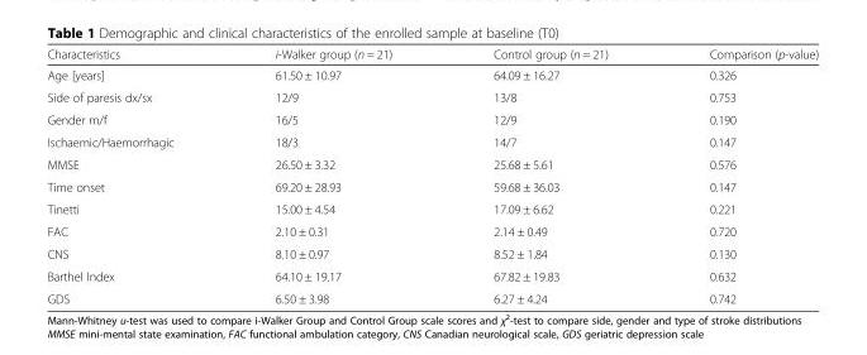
<table><thead><tr><td>Characteristics</td><td>i-Walker group (n = 21)</td><td>Control group (n = 21)</td><td>Comparison (p-value)</td></tr></thead><tbody><tr><td>Age [years]</td><td>61.50 ± 10.97</td><td>64.09 ± 16.27</td><td>0.326</td></tr><tr><td>Side of paresis dx/sx</td><td>12/9</td><td>13/8</td><td>0.753</td></tr><tr><td>Gender m/f</td><td>16/5</td><td>12/9</td><td>0.190</td></tr><tr><td>Ischaemic/Haemorrhagic</td><td>18/3</td><td>14/7</td><td>0.147</td></tr><tr><td>MMSE</td><td>26.50 ± 3.32</td><td>25.68 ± 5.61</td><td>0.576</td></tr><tr><td>Time onset</td><td>69.20 ± 28.93</td><td>59.68 ± 36.03</td><td>0.147</td></tr><tr><td>Tinetti</td><td>15.00 ± 4.54</td><td>17.09 ± 6.62</td><td>0.221</td></tr><tr><td>FAC</td><td>2.10 ± 0.31</td><td>2.14 ± 0.49</td><td>0.720</td></tr><tr><td>CNS</td><td>8.10 ± 0.97</td><td>8.52 ± 1.84</td><td>0.130</td></tr><tr><td>Barthel Index</td><td>64.10 ± 19.17</td><td>67.82 ± 19.83</td><td>0.632</td></tr><tr><td>GDS</td><td>6.50 ± 3.98</td><td>6.27 ± 4.24</td><td>0.742</td></tr></tbody></table>